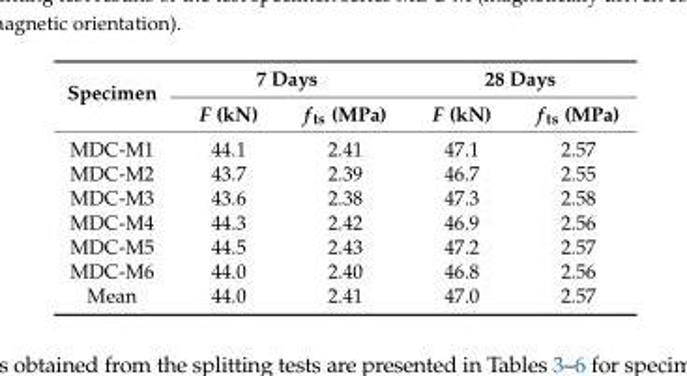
<table><thead><tr><td rowspan="2">Specimen</td><td colspan="2">7 Days</td><td colspan="2">28 Days</td></tr><tr><td>F (kN)</td><td>f<sub>ts</sub> (MPa)</td><td>F (kN)</td><td>f<sub>ts</sub> (MPa)</td></tr></thead><tbody><tr><td>MDC-M1</td><td>44.1</td><td>2.41</td><td>47.1</td><td>2.57</td></tr><tr><td>MDC-M2</td><td>43.7</td><td>2.39</td><td>46.7</td><td>2.55</td></tr><tr><td>MDC-M3</td><td>43.6</td><td>2.38</td><td>47.3</td><td>2.58</td></tr><tr><td>MDC-M4</td><td>44.3</td><td>2.42</td><td>46.9</td><td>2.56</td></tr><tr><td>MDC-M5</td><td>44.5</td><td>2.43</td><td>47.2</td><td>2.57</td></tr><tr><td>MDC-M6</td><td>44.0</td><td>2.40</td><td>46.8</td><td>2.56</td></tr><tr><td>Mean</td><td>44.0</td><td>2.41</td><td>47.0</td><td>2.57</td></tr></tbody></table>